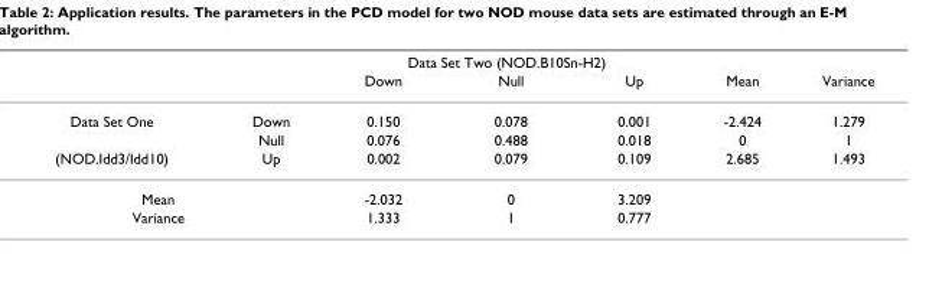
<table><thead><tr><td rowspan="2"></td><td rowspan="2"></td><td colspan="3">Data Set Two (NOD.B10Sn-H2)</td><td rowspan="2">Mean</td><td rowspan="2">Variance</td></tr><tr><td>Down</td><td>Null</td><td>Up</td></tr></thead><tbody><tr><td rowspan="2">Data Set One</td><td>Down</td><td>0.150</td><td>0.078</td><td>0.001</td><td>-2.424</td><td>1.279</td></tr><tr><td>Null</td><td>0.076</td><td>0.488</td><td>0.018</td><td>0</td><td>1</td></tr><tr><td>(NOD.Idd3/Idd10)</td><td>Up</td><td>0.002</td><td>0.079</td><td>0.109</td><td>2.685</td><td>1.493</td></tr><tr><td colspan="2">Mean</td><td>-2.032</td><td>0</td><td>3.209</td><td></td><td></td></tr><tr><td colspan="2">Variance</td><td>1.333</td><td>1</td><td>0.777</td><td></td><td></td></tr></tbody></table>